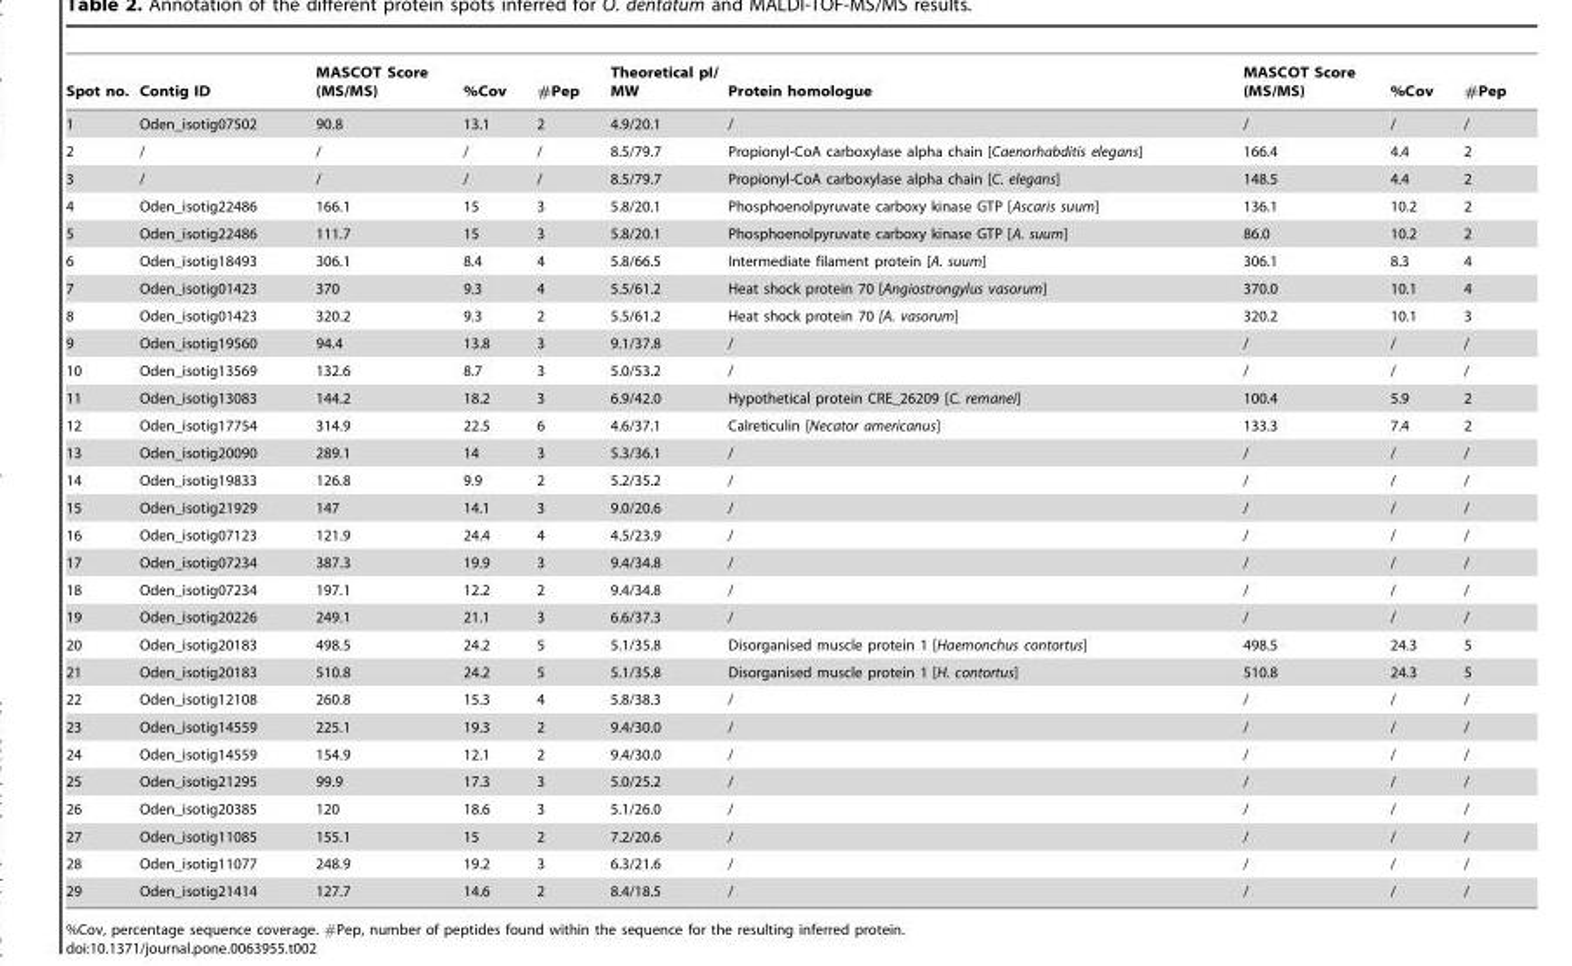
<table><thead><tr><td>Spot no.</td><td>Contig ID</td><td>MASCOT Score (MS/MS)</td><td>%Cov</td><td>#Pep</td><td>Theoretical pI/ MW</td><td>Protein homologue</td><td>MASCOT Score (MS/MS)</td><td>%Cov</td><td>#Pep</td></tr></thead><tbody><tr><td>1</td><td>Oden_isotig07502</td><td>90.8</td><td>13.1</td><td>2</td><td>4.9/20.1</td><td>/</td><td>/</td><td>/</td><td>/</td></tr><tr><td>2</td><td>/</td><td>/</td><td>/</td><td>/</td><td>8.5/79.7</td><td>Propionyl-CoA carboxylase alpha chain [Caenorhabditis elegans]</td><td>166.4</td><td>4.4</td><td>2</td></tr><tr><td>3</td><td>/</td><td>/</td><td>/</td><td>/</td><td>8.5/79.7</td><td>Propionyl-CoA carboxylase alpha chain [C. elegans]</td><td>148.5</td><td>4.4</td><td>2</td></tr><tr><td>4</td><td>Oden_isotig22486</td><td>166.1</td><td>15</td><td>3</td><td>5.8/20.1</td><td>Phosphoenolpyruvate carboxy kinase GTP [Ascaris suum]</td><td>136.1</td><td>10.2</td><td>2</td></tr><tr><td>5</td><td>Oden_isotig22486</td><td>111.7</td><td>15</td><td>3</td><td>5.8/20.1</td><td>Phosphoenolpyruvate carboxy kinase GTP [A. suum]</td><td>86.0</td><td>10.2</td><td>2</td></tr><tr><td>6</td><td>Oden_isotig18493</td><td>306.1</td><td>8.4</td><td>4</td><td>5.8/66.5</td><td>Intermediate filament protein [A. suum]</td><td>306.1</td><td>8.3</td><td>4</td></tr><tr><td>7</td><td>Oden_isotig01423</td><td>370</td><td>9.3</td><td>4</td><td>5.5/61.2</td><td>Heat shock protein 70 [Angiostrongylus vasorum]</td><td>370.0</td><td>10.1</td><td>4</td></tr><tr><td>8</td><td>Oden_isotig01423</td><td>320.2</td><td>9.3</td><td>2</td><td>5.5/61.2</td><td>Heat shock protein 70 [A. vasorum]</td><td>320.2</td><td>10.1</td><td>3</td></tr><tr><td>9</td><td>Oden_isotig19560</td><td>94.4</td><td>13.8</td><td>3</td><td>9.1/37.8</td><td>/</td><td>/</td><td>/</td><td>/</td></tr><tr><td>10</td><td>Oden_isotig13569</td><td>132.6</td><td>8.7</td><td>3</td><td>5.0/53.2</td><td>/</td><td>/</td><td>/</td><td>/</td></tr><tr><td>11</td><td>Oden_isotig13083</td><td>144.2</td><td>18.2</td><td>3</td><td>6.9/42.0</td><td>Hypothetical protein CRE_26209 [C. remanei]</td><td>100.4</td><td>5.9</td><td>2</td></tr><tr><td>12</td><td>Oden_isotig17754</td><td>314.9</td><td>22.5</td><td>6</td><td>4.6/37.1</td><td>Calreticulin [Necator americanus]</td><td>133.3</td><td>7.4</td><td>2</td></tr><tr><td>13</td><td>Oden_isotig20090</td><td>289.1</td><td>14</td><td>3</td><td>5.3/36.1</td><td>/</td><td>/</td><td>/</td><td>/</td></tr><tr><td>14</td><td>Oden_isotig19833</td><td>126.8</td><td>9.9</td><td>2</td><td>5.2/35.2</td><td>/</td><td>/</td><td>/</td><td>/</td></tr><tr><td>15</td><td>Oden_isotig21929</td><td>147</td><td>14.1</td><td>3</td><td>9.0/20.6</td><td>/</td><td>/</td><td>/</td><td>/</td></tr><tr><td>16</td><td>Oden_isotig07123</td><td>121.9</td><td>24.4</td><td>4</td><td>4.5/23.9</td><td>/</td><td>/</td><td>/</td><td>/</td></tr><tr><td>17</td><td>Oden_isotig07234</td><td>387.3</td><td>19.9</td><td>3</td><td>9.4/34.8</td><td>/</td><td>/</td><td>/</td><td>/</td></tr><tr><td>18</td><td>Oden_isotig07234</td><td>197.1</td><td>12.2</td><td>2</td><td>9.4/34.8</td><td>/</td><td>/</td><td>/</td><td>/</td></tr><tr><td>19</td><td>Oden_isotig20226</td><td>249.1</td><td>21.1</td><td>3</td><td>6.6/37.3</td><td>/</td><td>/</td><td>/</td><td>/</td></tr><tr><td>20</td><td>Oden_isotig20183</td><td>498.5</td><td>24.2</td><td>5</td><td>5.1/35.8</td><td>Disorganised muscle protein 1 [Haemonchus contortus]</td><td>498.5</td><td>24.3</td><td>5</td></tr><tr><td>21</td><td>Oden_isotig20183</td><td>510.8</td><td>24.2</td><td>5</td><td>5.1/35.8</td><td>Disorganised muscle protein 1 [H. contortus]</td><td>510.8</td><td>24.3</td><td>5</td></tr><tr><td>22</td><td>Oden_isotig12108</td><td>260.8</td><td>15.3</td><td>4</td><td>5.8/38.3</td><td>/</td><td>/</td><td>/</td><td>/</td></tr><tr><td>23</td><td>Oden_isotig14559</td><td>225.1</td><td>19.3</td><td>2</td><td>9.4/30.0</td><td>/</td><td>/</td><td>/</td><td>/</td></tr><tr><td>24</td><td>Oden_isotig14559</td><td>154.9</td><td>12.1</td><td>2</td><td>9.4/30.0</td><td>/</td><td>/</td><td>/</td><td>/</td></tr><tr><td>25</td><td>Oden_isotig21295</td><td>99.9</td><td>17.3</td><td>3</td><td>5.0/25.2</td><td>/</td><td>/</td><td>/</td><td>/</td></tr><tr><td>26</td><td>Oden_isotig20385</td><td>120</td><td>18.6</td><td>3</td><td>5.1/26.0</td><td>/</td><td>/</td><td>/</td><td>/</td></tr><tr><td>27</td><td>Oden_isotig11085</td><td>155.1</td><td>15</td><td>2</td><td>7.2/20.6</td><td>/</td><td>/</td><td>/</td><td>/</td></tr><tr><td>28</td><td>Oden_isotig11077</td><td>248.9</td><td>19.2</td><td>3</td><td>6.3/21.6</td><td>/</td><td>/</td><td>/</td><td>/</td></tr><tr><td>29</td><td>Oden_isotig21414</td><td>127.7</td><td>14.6</td><td>2</td><td>8.4/18.5</td><td>/</td><td>/</td><td>/</td><td>/</td></tr></tbody></table>